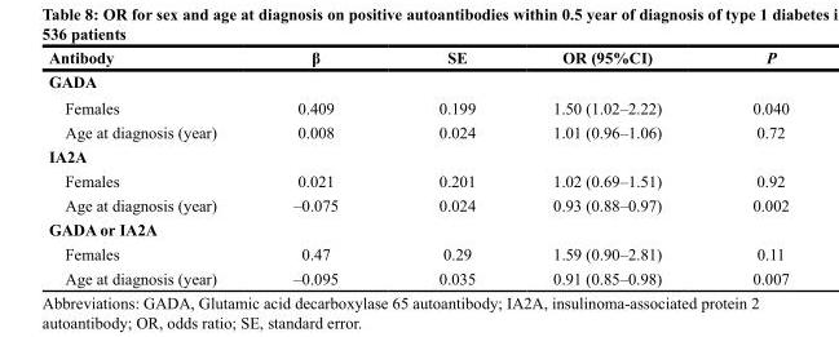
<table><thead><tr><td>Antibody</td><td>β</td><td>SE</td><td>OR (95%CI)</td><td>P</td></tr></thead><tbody><tr><td colspan="5">GADA</td></tr><tr><td>Females</td><td>0.409</td><td>0.199</td><td>1.50 (1.02–2.22)</td><td>0.040</td></tr><tr><td>Age at diagnosis (year)</td><td>0.008</td><td>0.024</td><td>1.01 (0.96–1.06)</td><td>0.72</td></tr><tr><td colspan="5">IA2A</td></tr><tr><td>Females</td><td>0.021</td><td>0.201</td><td>1.02 (0.69–1.51)</td><td>0.92</td></tr><tr><td>Age at diagnosis (year)</td><td>–0.075</td><td>0.024</td><td>0.93 (0.88–0.97)</td><td>0.002</td></tr><tr><td colspan="5">GADA or IA2A</td></tr><tr><td>Females</td><td>0.47</td><td>0.29</td><td>1.59 (0.90–2.81)</td><td>0.11</td></tr><tr><td>Age at diagnosis (year)</td><td>–0.095</td><td>0.035</td><td>0.91 (0.85–0.98)</td><td>0.007</td></tr></tbody></table>